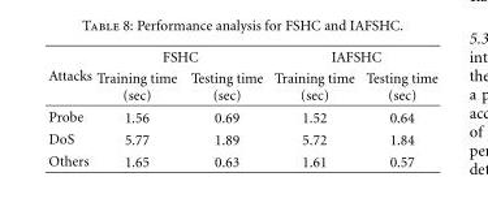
<table><thead><tr><td rowspan="2">Attacks</td><td colspan="2">FSHC</td><td colspan="2">IAFSHC</td></tr><tr><td>Training time (sec)</td><td>Testing time (sec)</td><td>Training time (sec)</td><td>Testing time (sec)</td></tr></thead><tbody><tr><td>Probe</td><td>1.56</td><td>0.69</td><td>1.52</td><td>0.64</td></tr><tr><td>DoS</td><td>5.77</td><td>1.89</td><td>5.72</td><td>1.84</td></tr><tr><td>Others</td><td>1.65</td><td>0.63</td><td>1.61</td><td>0.57</td></tr></tbody></table>